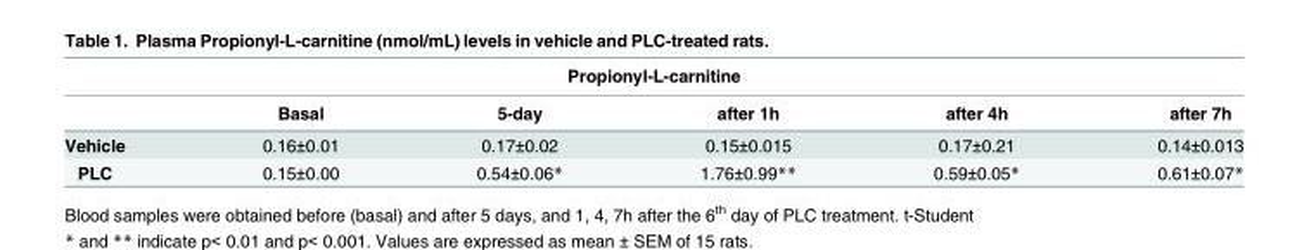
<table><thead><tr><td colspan="6">Propionyl-L-carnitine</td></tr><tr><td></td><td>Basal</td><td>5-day</td><td>after 1h</td><td>after 4h</td><td>after 7h</td></tr></thead><tbody><tr><td>Vehicle</td><td>0.16±0.01</td><td>0.17±0.02</td><td>0.15±0.015</td><td>0.17±0.21</td><td>0.14±0.013</td></tr><tr><td>PLC</td><td>0.15±0.00</td><td>0.54±0.06*</td><td>1.76±0.99**</td><td>0.59±0.05*</td><td>0.61±0.07*</td></tr></tbody></table>